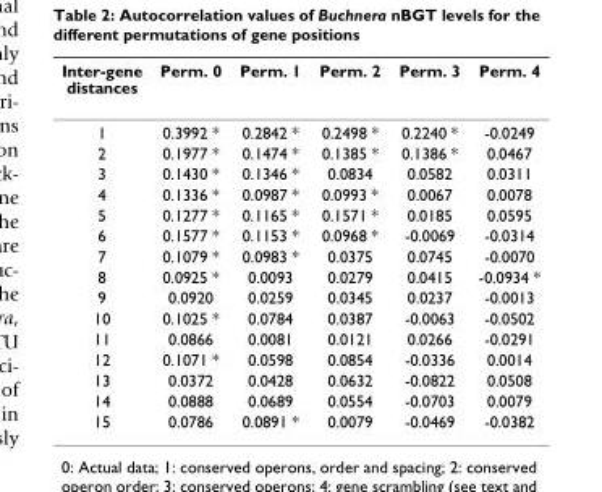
<table><thead><tr><td>Inter-gene distances</td><td>Perm. 0</td><td>Perm. 1</td><td>Perm. 2</td><td>Perm. 3</td><td>Perm. 4</td></tr></thead><tbody><tr><td>1</td><td>0.3992 *</td><td>0.2842 *</td><td>0.2498 *</td><td>0.2240 *</td><td>-0.0249</td></tr><tr><td>2</td><td>0.1977 *</td><td>0.1474 *</td><td>0.1385 *</td><td>0.1386 *</td><td>0.0467</td></tr><tr><td>3</td><td>0.1430 *</td><td>0.1346 *</td><td>0.0834</td><td>0.0582</td><td>0.0311</td></tr><tr><td>4</td><td>0.1336 *</td><td>0.0987 *</td><td>0.0993 *</td><td>0.0067</td><td>0.0078</td></tr><tr><td>5</td><td>0.1277 *</td><td>0.1165 *</td><td>0.1571 *</td><td>0.0185</td><td>0.0595</td></tr><tr><td>6</td><td>0.1577 *</td><td>0.1153 *</td><td>0.0968 *</td><td>-0.0069</td><td>-0.0314</td></tr><tr><td>7</td><td>0.1079 *</td><td>0.0983 *</td><td>0.0375</td><td>0.0745</td><td>-0.0070</td></tr><tr><td>8</td><td>0.0925 *</td><td>0.0093</td><td>0.0279</td><td>0.0415</td><td>-0.0934 *</td></tr><tr><td>9</td><td>0.0920</td><td>0.0259</td><td>0.0345</td><td>0.0237</td><td>-0.0013</td></tr><tr><td>10</td><td>0.1025 *</td><td>0.0784</td><td>0.0387</td><td>-0.0063</td><td>-0.0502</td></tr><tr><td>11</td><td>0.0866</td><td>0.0081</td><td>0.0121</td><td>0.0266</td><td>-0.0291</td></tr><tr><td>12</td><td>0.1071 *</td><td>0.0598</td><td>0.0854</td><td>-0.0336</td><td>0.0014</td></tr><tr><td>13</td><td>0.0372</td><td>0.0428</td><td>0.0632</td><td>-0.0822</td><td>0.0508</td></tr><tr><td>14</td><td>0.0888</td><td>0.0689</td><td>0.0554</td><td>-0.0703</td><td>0.0079</td></tr><tr><td>15</td><td>0.0786</td><td>0.0891 *</td><td>0.0079</td><td>-0.0469</td><td>-0.0382</td></tr></tbody></table>